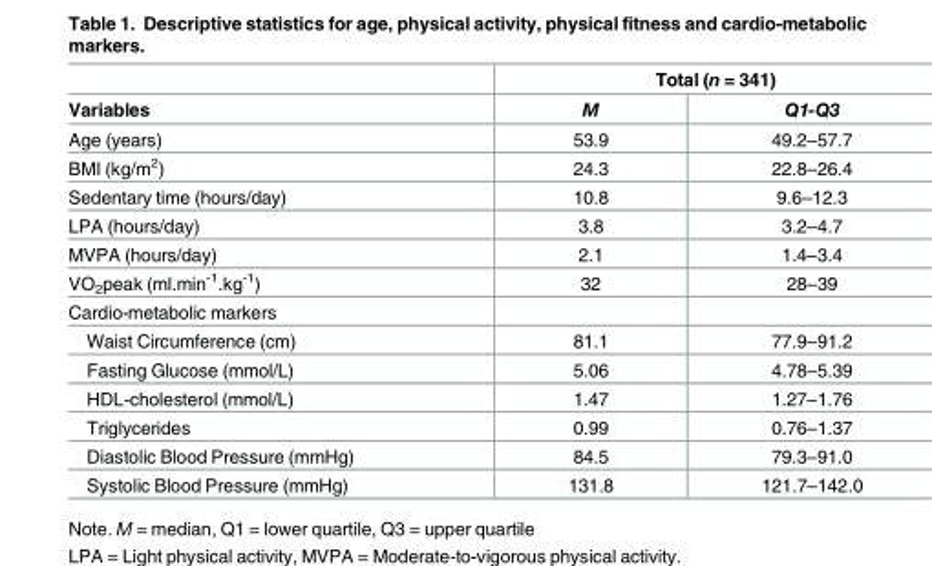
<table><thead><tr><td rowspan="2">Variables</td><td colspan="2">Total (n = 341)</td></tr><tr><td>M</td><td>Q1-Q3</td></tr></thead><tbody><tr><td>Age (years)</td><td>53.9</td><td>49.2–57.7</td></tr><tr><td>BMI (kg/m<sup>2</sup>)</td><td>24.3</td><td>22.8–26.4</td></tr><tr><td>Sedentary time (hours/day)</td><td>10.8</td><td>9.6–12.3</td></tr><tr><td>LPA (hours/day)</td><td>3.8</td><td>3.2–4.7</td></tr><tr><td>MVPA (hours/day)</td><td>2.1</td><td>1.4–3.4</td></tr><tr><td>VO<sub>2</sub>peak (ml.min<sup>-1</sup>.kg<sup>-1</sup>)</td><td>32</td><td>28–39</td></tr><tr><td colspan="3">Cardio-metabolic markers</td></tr><tr><td>Waist Circumference (cm)</td><td>81.1</td><td>77.9–91.2</td></tr><tr><td>Fasting Glucose (mmol/L)</td><td>5.06</td><td>4.78–5.39</td></tr><tr><td>HDL-cholesterol (mmol/L)</td><td>1.47</td><td>1.27–1.76</td></tr><tr><td>Triglycerides</td><td>0.99</td><td>0.76–1.37</td></tr><tr><td>Diastolic Blood Pressure (mmHg)</td><td>84.5</td><td>79.3–91.0</td></tr><tr><td>Systolic Blood Pressure (mmHg)</td><td>131.8</td><td>121.7–142.0</td></tr></tbody></table>